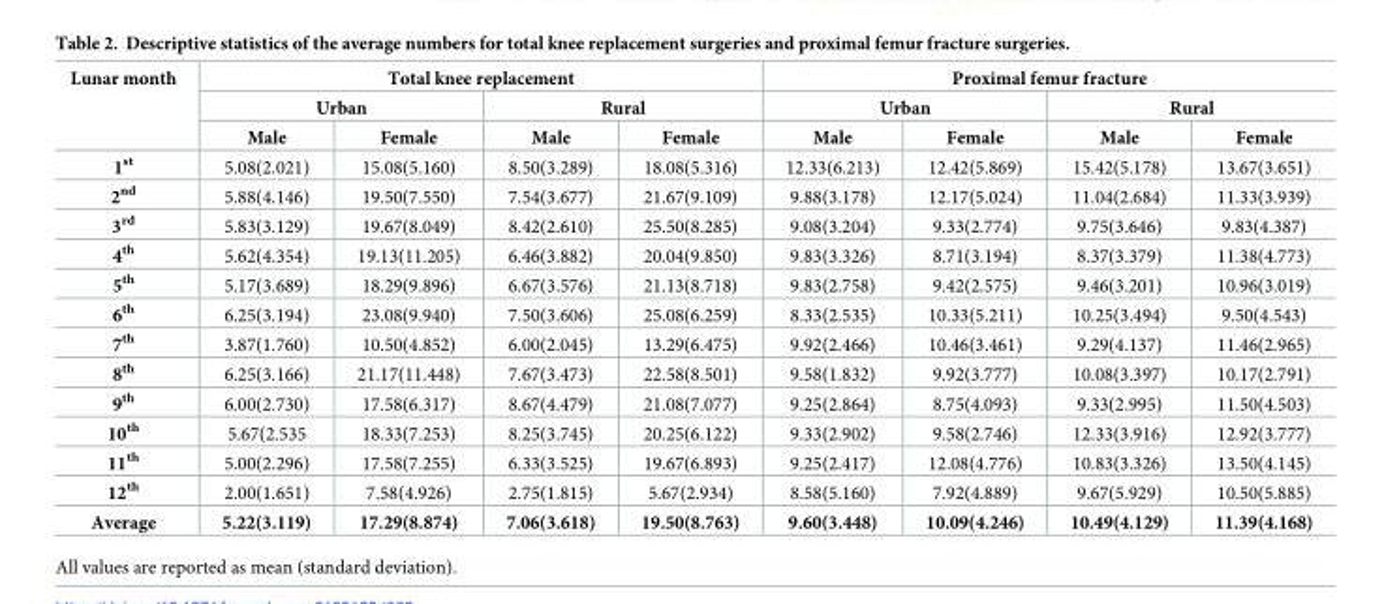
<table><thead><tr><td rowspan="3">Lunar month</td><td colspan="4">Total knee replacement</td><td colspan="4">Proximal femur fracture</td></tr><tr><td colspan="2">Urban</td><td colspan="2">Rural</td><td colspan="2">Urban</td><td colspan="2">Rural</td></tr><tr><td>Male</td><td>Female</td><td>Male</td><td>Female</td><td>Male</td><td>Female</td><td>Male</td><td>Female</td></tr></thead><tbody><tr><td>1<sup>st</sup></td><td>5.08(2.021)</td><td>15.08(5.160)</td><td>8.50(3.289)</td><td>18.08(5.316)</td><td>12.33(6.213)</td><td>12.42(5.869)</td><td>15.42(5.178)</td><td>13.67(3.651)</td></tr><tr><td>2<sup>nd</sup></td><td>5.88(4.146)</td><td>19.50(7.550)</td><td>7.54(3.677)</td><td>21.67(9.109)</td><td>9.88(3.178)</td><td>12.17(5.024)</td><td>11.04(2.684)</td><td>11.33(3.939)</td></tr><tr><td>3<sup>rd</sup></td><td>5.83(3.129)</td><td>19.67(8.049)</td><td>8.42(2.610)</td><td>25.50(8.285)</td><td>9.08(3.204)</td><td>9.33(2.774)</td><td>9.75(3.646)</td><td>9.83(4.387)</td></tr><tr><td>4<sup>th</sup></td><td>5.62(4.354)</td><td>19.13(11.205)</td><td>6.46(3.882)</td><td>20.04(9.850)</td><td>9.83(3.326)</td><td>8.71(3.194)</td><td>8.37(3.379)</td><td>11.38(4.773)</td></tr><tr><td>5<sup>th</sup></td><td>5.17(3.689)</td><td>18.29(9.896)</td><td>6.67(3.576)</td><td>21.13(8.718)</td><td>9.83(2.758)</td><td>9.42(2.575)</td><td>9.46(3.201)</td><td>10.96(3.019)</td></tr><tr><td>6<sup>th</sup></td><td>6.25(3.194)</td><td>23.08(9.940)</td><td>7.50(3.606)</td><td>25.08(6.259)</td><td>8.33(2.535)</td><td>10.33(5.211)</td><td>10.25(3.494)</td><td>9.50(4.543)</td></tr><tr><td>7<sup>th</sup></td><td>3.87(1.760)</td><td>10.50(4.852)</td><td>6.00(2.045)</td><td>13.29(6.475)</td><td>9.92(2.466)</td><td>10.46(3.461)</td><td>9.29(4.137)</td><td>11.46(2.965)</td></tr><tr><td>8<sup>th</sup></td><td>6.25(3.166)</td><td>21.17(11.448)</td><td>7.67(3.473)</td><td>22.58(8.501)</td><td>9.58(1.832)</td><td>9.92(3.777)</td><td>10.08(3.397)</td><td>10.17(2.791)</td></tr><tr><td>9<sup>th</sup></td><td>6.00(2.730)</td><td>17.58(6.317)</td><td>8.67(4.479)</td><td>21.08(7.077)</td><td>9.25(2.864)</td><td>8.75(4.093)</td><td>9.33(2.995)</td><td>11.50(4.503)</td></tr><tr><td>10<sup>th</sup></td><td>5.67(2.535</td><td>18.33(7.253)</td><td>8.25(3.745)</td><td>20.25(6.122)</td><td>9.33(2.902)</td><td>9.58(2.746)</td><td>12.33(3.916)</td><td>12.92(3.777)</td></tr><tr><td>11<sup>th</sup></td><td>5.00(2.296)</td><td>17.58(7.255)</td><td>6.33(3.525)</td><td>19.67(6.893)</td><td>9.25(2.417)</td><td>12.08(4.776)</td><td>10.83(3.326)</td><td>13.50(4.145)</td></tr><tr><td>12<sup>th</sup></td><td>2.00(1.651)</td><td>7.58(4.926)</td><td>2.75(1.815)</td><td>5.67(2.934)</td><td>8.58(5.160)</td><td>7.92(4.889)</td><td>9.67(5.929)</td><td>10.50(5.885)</td></tr><tr><td>Average</td><td>5.22(3.119)</td><td>17.29(8.874)</td><td>7.06(3.618)</td><td>19.50(8.763)</td><td>9.60(3.448)</td><td>10.09(4.246)</td><td>10.49(4.129)</td><td>11.39(4.168)</td></tr></tbody></table>